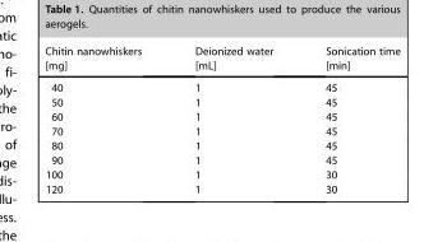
<table><thead><tr><td>Chitin nanowhiskers [mg]</td><td>Deionized water [mL]</td><td>Sonication time [min]</td></tr></thead><tbody><tr><td>40</td><td>1</td><td>45</td></tr><tr><td>50</td><td>1</td><td>45</td></tr><tr><td>60</td><td>1</td><td>45</td></tr><tr><td>70</td><td>1</td><td>45</td></tr><tr><td>80</td><td>1</td><td>45</td></tr><tr><td>90</td><td>1</td><td>45</td></tr><tr><td>100</td><td>1</td><td>30</td></tr><tr><td>120</td><td>1</td><td>30</td></tr></tbody></table>